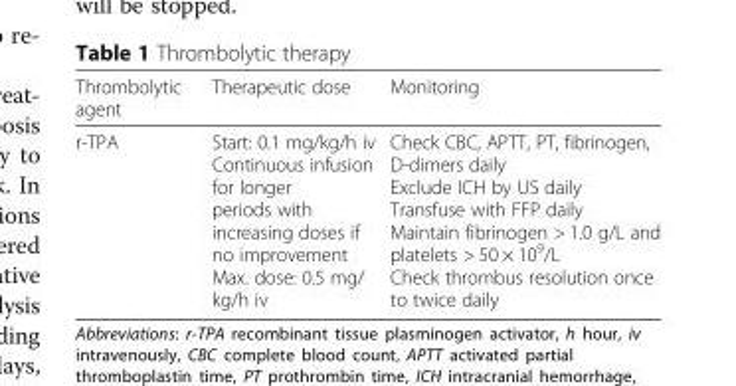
<table><thead><tr><td>Thrombolytic agent</td><td>Therapeutic dose</td><td>Monitoring</td></tr></thead><tbody><tr><td>r-TPA</td><td>Start: 0.1 mg/kg/h iv Continuous infusion for longer periods with increasing doses if no improvement Max. dose: 0.5 mg/ kg/h iv</td><td>Check CBC, APTT, PT, fibrinogen, D-dimers daily Exclude ICH by US daily Transfuse with FFP daily Maintain fibrinogen &gt; 1.0 g/L and platelets &gt; 50 × 10<sup>9</sup>/L Check thrombus resolution once to twice daily</td></tr></tbody></table>